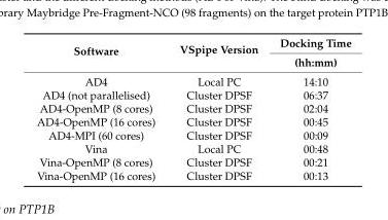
<table><thead><tr><td rowspan="2">Software</td><td rowspan="2">VSpipe Version</td><td rowspan="2">Docking Time (hh:mm)</td></tr><tr></tr></thead><tbody><tr><td>AD4</td><td>Local PC</td><td>14:10</td></tr><tr><td>AD4 (not parallelised)</td><td>Cluster DPSF</td><td>06:37</td></tr><tr><td>AD4-OpenMP (8 cores)</td><td>Cluster DPSF</td><td>02:04</td></tr><tr><td>AD4-OpenMP (16 cores)</td><td>Cluster DPSF</td><td>00:45</td></tr><tr><td>AD4-MPI (60 cores)</td><td>Cluster DPSF</td><td>00:09</td></tr><tr><td>Vina</td><td>Local PC</td><td>00:48</td></tr><tr><td>Vina-OpenMP (8 cores)</td><td>Cluster DPSF</td><td>00:21</td></tr><tr><td>Vina-OpenMP (16 cores)</td><td>Cluster DPSF</td><td>00:13</td></tr></tbody></table>